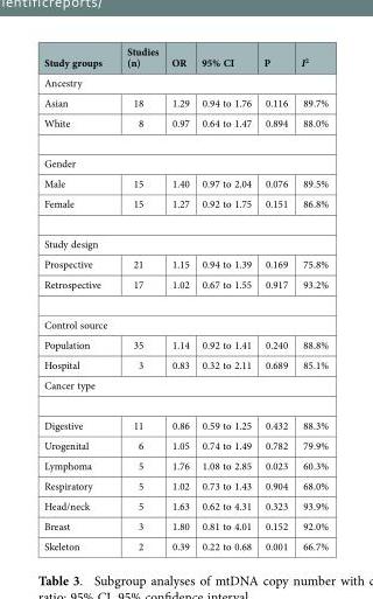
<table><thead><tr><td>Study groups</td><td>Studies (n)</td><td>OR</td><td>95% CI</td><td>P</td><td>I<sup>2</sup></td></tr></thead><tbody><tr><td colspan="6">Ancestry</td></tr><tr><td>Asian</td><td>18</td><td>1.29</td><td>0.94 to 1.76</td><td>0.116</td><td>89.7%</td></tr><tr><td>White</td><td>8</td><td>0.97</td><td>0.64 to 1.47</td><td>0.894</td><td>88.0%</td></tr><tr><td colspan="6">Gender</td></tr><tr><td>Male</td><td>15</td><td>1.40</td><td>0.97 to 2.04</td><td>0.076</td><td>89.5%</td></tr><tr><td>Female</td><td>15</td><td>1.27</td><td>0.92 to 1.75</td><td>0.151</td><td>86.8%</td></tr><tr><td colspan="6">Study design</td></tr><tr><td>Prospective</td><td>21</td><td>1.15</td><td>0.94 to 1.39</td><td>0.169</td><td>75.8%</td></tr><tr><td>Retrospective</td><td>17</td><td>1.02</td><td>0.67 to 1.55</td><td>0.917</td><td>93.2%</td></tr><tr><td colspan="6">Control source</td></tr><tr><td>Population</td><td>35</td><td>1.14</td><td>0.92 to 1.41</td><td>0.240</td><td>88.8%</td></tr><tr><td>Hospital</td><td>3</td><td>0.83</td><td>0.32 to 2.11</td><td>0.689</td><td>85.1%</td></tr><tr><td colspan="6">Cancer type</td></tr><tr><td>Digestive</td><td>11</td><td>0.86</td><td>0.59 to 1.25</td><td>0.432</td><td>88.3%</td></tr><tr><td>Urogenital</td><td>6</td><td>1.05</td><td>0.74 to 1.49</td><td>0.782</td><td>79.9%</td></tr><tr><td>Lymphoma</td><td>5</td><td>1.76</td><td>1.08 to 2.85</td><td>0.023</td><td>60.3%</td></tr><tr><td>Respiratory</td><td>5</td><td>1.02</td><td>0.73 to 1.43</td><td>0.904</td><td>68.0%</td></tr><tr><td>Head/neck</td><td>5</td><td>1.63</td><td>0.62 to 4.31</td><td>0.323</td><td>93.9%</td></tr><tr><td>Breast</td><td>3</td><td>1.80</td><td>0.81 to 4.01</td><td>0.152</td><td>92.0%</td></tr><tr><td>Skeleton</td><td>2</td><td>0.39</td><td>0.22 to 0.68</td><td>0.001</td><td>66.7%</td></tr></tbody></table>